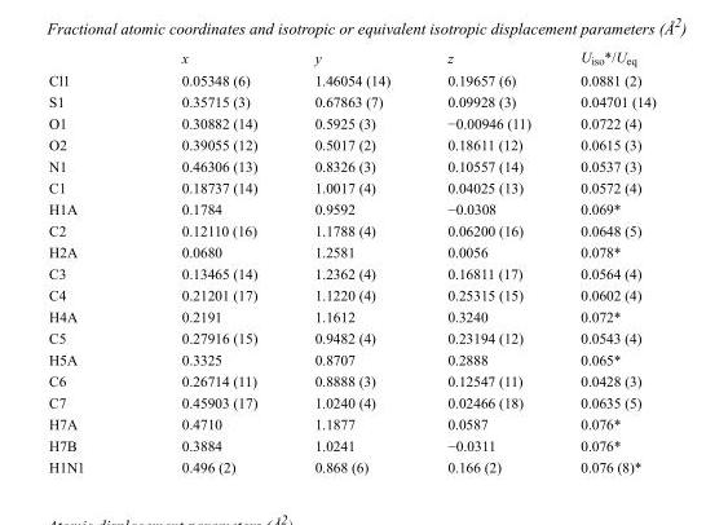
<table><thead><tr><td></td><td>x</td><td>y</td><td>z</td><td>U<sub>iso</sub>*/U<sub>eq</sub></td></tr></thead><tbody><tr><td>Cl1</td><td>0.05348 (6)</td><td>1.46054 (14)</td><td>0.19657 (6)</td><td>0.0881 (2)</td></tr><tr><td>S1</td><td>0.35715 (3)</td><td>0.67863 (7)</td><td>0.09928 (3)</td><td>0.04701 (14)</td></tr><tr><td>O1</td><td>0.30882 (14)</td><td>0.5925 (3)</td><td>−0.00946 (11)</td><td>0.0722 (4)</td></tr><tr><td>O2</td><td>0.39055 (12)</td><td>0.5017 (2)</td><td>0.18611 (12)</td><td>0.0615 (3)</td></tr><tr><td>N1</td><td>0.46306 (13)</td><td>0.8326 (3)</td><td>0.10557 (14)</td><td>0.0537 (3)</td></tr><tr><td>C1</td><td>0.18737 (14)</td><td>1.0017 (4)</td><td>0.04025 (13)</td><td>0.0572 (4)</td></tr><tr><td>H1A</td><td>0.1784</td><td>0.9592</td><td>−0.0308</td><td>0.069*</td></tr><tr><td>C2</td><td>0.12110 (16)</td><td>1.1788 (4)</td><td>0.06200 (16)</td><td>0.0648 (5)</td></tr><tr><td>H2A</td><td>0.0680</td><td>1.2581</td><td>0.0056</td><td>0.078*</td></tr><tr><td>C3</td><td>0.13465 (14)</td><td>1.2362 (4)</td><td>0.16811 (17)</td><td>0.0564 (4)</td></tr><tr><td>C4</td><td>0.21201 (17)</td><td>1.1220 (4)</td><td>0.25315 (15)</td><td>0.0602 (4)</td></tr><tr><td>H4A</td><td>0.2191</td><td>1.1612</td><td>0.3240</td><td>0.072*</td></tr><tr><td>C5</td><td>0.27916 (15)</td><td>0.9482 (4)</td><td>0.23194 (12)</td><td>0.0543 (4)</td></tr><tr><td>H5A</td><td>0.3325</td><td>0.8707</td><td>0.2888</td><td>0.065*</td></tr><tr><td>C6</td><td>0.26714 (11)</td><td>0.8888 (3)</td><td>0.12547 (11)</td><td>0.0428 (3)</td></tr><tr><td>C7</td><td>0.45903 (17)</td><td>1.0240 (4)</td><td>0.02466 (18)</td><td>0.0635 (5)</td></tr><tr><td>H7A</td><td>0.4710</td><td>1.1877</td><td>0.0587</td><td>0.076*</td></tr><tr><td>H7B</td><td>0.3884</td><td>1.0241</td><td>−0.0311</td><td>0.076*</td></tr><tr><td>H1N1</td><td>0.496 (2)</td><td>0.868 (6)</td><td>0.166 (2)</td><td>0.076 (8)*</td></tr></tbody></table>